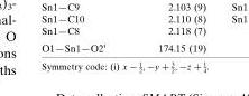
<table><tbody><tr><td>O1—Sn1—O2<sup>i</sup></td><td>174.15 (19)</td></tr></tbody></table>